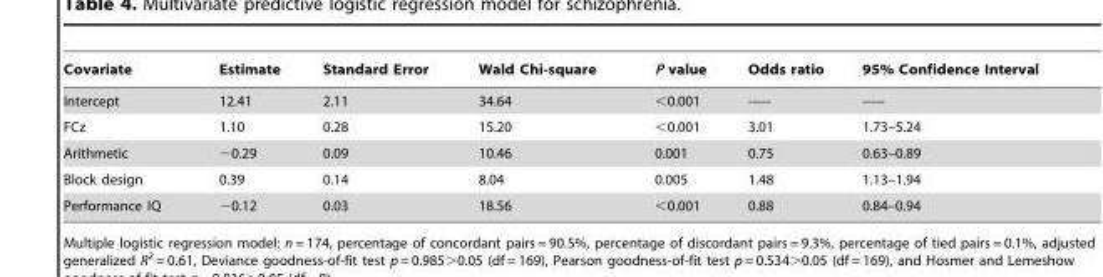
<table><thead><tr><td>Covariate</td><td>Estimate</td><td>Standard Error</td><td>Wald Chi-square</td><td>P value</td><td>Odds ratio</td><td>95% Confidence Interval</td></tr></thead><tbody><tr><td>Intercept</td><td>12.41</td><td>2.11</td><td>34.64</td><td>&lt;0.001</td><td>-----</td><td>-----</td></tr><tr><td>FCz</td><td>1.10</td><td>0.28</td><td>15.20</td><td>&lt;0.001</td><td>3.01</td><td>1.73–5.24</td></tr><tr><td>Arithmetic</td><td>−0.29</td><td>0.09</td><td>10.46</td><td>0.001</td><td>0.75</td><td>0.63–0.89</td></tr><tr><td>Block design</td><td>0.39</td><td>0.14</td><td>8.04</td><td>0.005</td><td>1.48</td><td>1.13–1.94</td></tr><tr><td>Performance IQ</td><td>−0.12</td><td>0.03</td><td>18.56</td><td>&lt;0.001</td><td>0.88</td><td>0.84–0.94</td></tr></tbody></table>